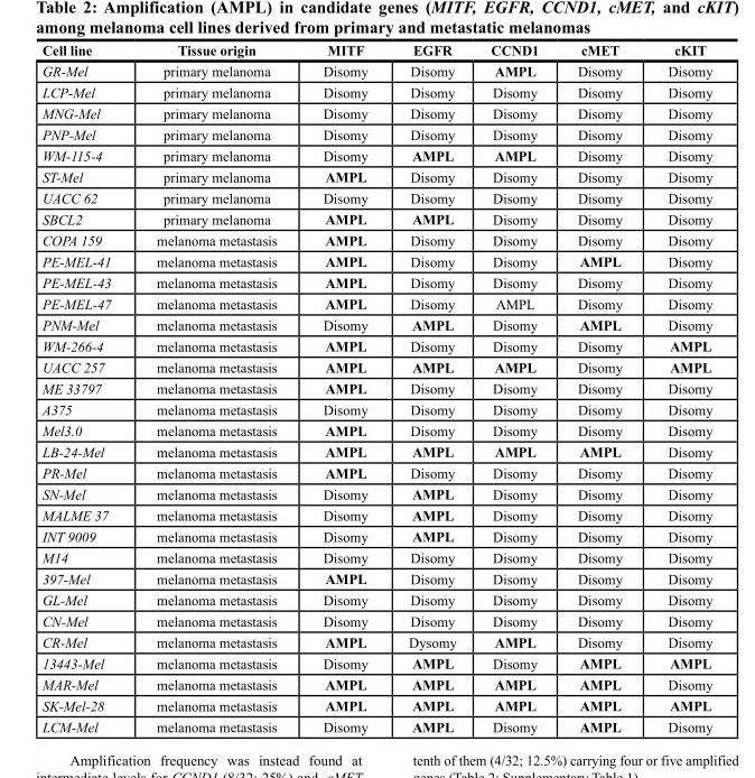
<table><thead><tr><td>Cell line</td><td>Tissue origin</td><td>MITF</td><td>EGFR</td><td>CCND1</td><td>cMET</td><td>cKIT</td></tr></thead><tbody><tr><td>GR-Mel</td><td>primary melanoma</td><td>Disomy</td><td>Disomy</td><td>AMPL</td><td>Disomy</td><td>Disomy</td></tr><tr><td>LCP-Mel</td><td>primary melanoma</td><td>Disomy</td><td>Disomy</td><td>Disomy</td><td>Disomy</td><td>Disomy</td></tr><tr><td>MNG-Mel</td><td>primary melanoma</td><td>Disomy</td><td>Disomy</td><td>Disomy</td><td>Disomy</td><td>Disomy</td></tr><tr><td>PNP-Mel</td><td>primary melanoma</td><td>Disomy</td><td>Disomy</td><td>Disomy</td><td>Disomy</td><td>Disomy</td></tr><tr><td>WM-115-4</td><td>primary melanoma</td><td>Disomy</td><td>AMPL</td><td>AMPL</td><td>Disomy</td><td>Disomy</td></tr><tr><td>ST-Mel</td><td>primary melanoma</td><td>AMPL</td><td>Disomy</td><td>Disomy</td><td>Disomy</td><td>Disomy</td></tr><tr><td>UACC 62</td><td>primary melanoma</td><td>Disomy</td><td>Disomy</td><td>Disomy</td><td>Disomy</td><td>Disomy</td></tr><tr><td>SBCL2</td><td>primary melanoma</td><td>AMPL</td><td>AMPL</td><td>Disomy</td><td>Disomy</td><td>Disomy</td></tr><tr><td>COPA 159</td><td>melanoma metastasis</td><td>AMPL</td><td>Disomy</td><td>Disomy</td><td>Disomy</td><td>Disomy</td></tr><tr><td>PE-MEL-41</td><td>melanoma metastasis</td><td>AMPL</td><td>Disomy</td><td>Disomy</td><td>AMPL</td><td>Disomy</td></tr><tr><td>PE-MEL-43</td><td>melanoma metastasis</td><td>AMPL</td><td>Disomy</td><td>Disomy</td><td>Disomy</td><td>Disomy</td></tr><tr><td>PE-MEL-47</td><td>melanoma metastasis</td><td>AMPL</td><td>Disomy</td><td>AMPL</td><td>Disomy</td><td>Disomy</td></tr><tr><td>PNM-Mel</td><td>melanoma metastasis</td><td>Disomy</td><td>AMPL</td><td>Disomy</td><td>AMPL</td><td>Disomy</td></tr><tr><td>WM-266-4</td><td>melanoma metastasis</td><td>AMPL</td><td>Disomy</td><td>Disomy</td><td>Disomy</td><td>AMPL</td></tr><tr><td>UACC 257</td><td>melanoma metastasis</td><td>AMPL</td><td>AMPL</td><td>AMPL</td><td>Disomy</td><td>AMPL</td></tr><tr><td>ME 33797</td><td>melanoma metastasis</td><td>AMPL</td><td>Disomy</td><td>Disomy</td><td>Disomy</td><td>Disomy</td></tr><tr><td>A375</td><td>melanoma metastasis</td><td>Disomy</td><td>Disomy</td><td>Disomy</td><td>Disomy</td><td>Disomy</td></tr><tr><td>Mel3.0</td><td>melanoma metastasis</td><td>AMPL</td><td>Disomy</td><td>Disomy</td><td>Disomy</td><td>Disomy</td></tr><tr><td>LB-24-Mel</td><td>melanoma metastasis</td><td>AMPL</td><td>AMPL</td><td>AMPL</td><td>AMPL</td><td>Disomy</td></tr><tr><td>PR-Mel</td><td>melanoma metastasis</td><td>AMPL</td><td>Disomy</td><td>Disomy</td><td>Disomy</td><td>Disomy</td></tr><tr><td>SN-Mel</td><td>melanoma metastasis</td><td>Disomy</td><td>AMPL</td><td>Disomy</td><td>Disomy</td><td>Disomy</td></tr><tr><td>MALME 37</td><td>melanoma metastasis</td><td>Disomy</td><td>AMPL</td><td>Disomy</td><td>Disomy</td><td>Disomy</td></tr><tr><td>INT 9009</td><td>melanoma metastasis</td><td>Disomy</td><td>AMPL</td><td>Disomy</td><td>Disomy</td><td>Disomy</td></tr><tr><td>M14</td><td>melanoma metastasis</td><td>Disomy</td><td>Disomy</td><td>Disomy</td><td>Disomy</td><td>Disomy</td></tr><tr><td>397-Mel</td><td>melanoma metastasis</td><td>AMPL</td><td>Disomy</td><td>Disomy</td><td>Disomy</td><td>Disomy</td></tr><tr><td>GL-Mel</td><td>melanoma metastasis</td><td>Disomy</td><td>Disomy</td><td>Disomy</td><td>Disomy</td><td>Disomy</td></tr><tr><td>CN-Mel</td><td>melanoma metastasis</td><td>Disomy</td><td>Disomy</td><td>Disomy</td><td>Disomy</td><td>Disomy</td></tr><tr><td>CR-Mel</td><td>melanoma metastasis</td><td>AMPL</td><td>Dysomy</td><td>AMPL</td><td>Disomy</td><td>Disomy</td></tr><tr><td>13443-Mel</td><td>melanoma metastasis</td><td>Disomy</td><td>AMPL</td><td>Disomy</td><td>AMPL</td><td>AMPL</td></tr><tr><td>MAR-Mel</td><td>melanoma metastasis</td><td>AMPL</td><td>AMPL</td><td>AMPL</td><td>AMPL</td><td>Disomy</td></tr><tr><td>SK-Mel-28</td><td>melanoma metastasis</td><td>AMPL</td><td>AMPL</td><td>AMPL</td><td>AMPL</td><td>AMPL</td></tr><tr><td>LCM-Mel</td><td>melanoma metastasis</td><td>Disomy</td><td>AMPL</td><td>Disomy</td><td>AMPL</td><td>Disomy</td></tr></tbody></table>